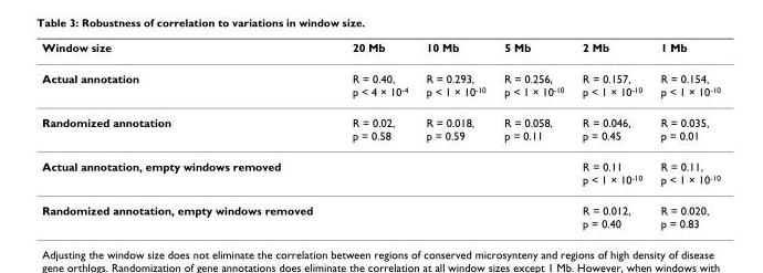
<table><thead><tr><td>Window size</td><td>20 Mb</td><td>10 Mb</td><td>5 Mb</td><td>2 Mb</td><td>1 Mb</td></tr></thead><tbody><tr><td>Actual annotation</td><td>R = 0.40, p &lt; 4 × 10<sup>-4</sup></td><td>R = 0.293, p &lt; 1 × 10<sup>-10</sup></td><td>R = 0.256, p &lt; 1 × 10<sup>-10</sup></td><td>R = 0.157, p &lt; 1 × 10<sup>-10</sup></td><td>R = 0.154, p &lt; 1 × 10<sup>-10</sup></td></tr><tr><td>Randomized annotation</td><td>R = 0.02, p = 0.58</td><td>R = 0.018, p = 0.59</td><td>R = 0.058, p = 0.11</td><td>R = 0.046, p = 0.45</td><td>R = 0.035, p = 0.01</td></tr><tr><td>Actual annotation, empty windows removed</td><td></td><td></td><td></td><td>R = 0.11 p &lt; 1 × 10<sup>-10</sup></td><td>R = 0.11, p &lt; 1 × 10<sup>-10</sup></td></tr><tr><td>Randomized annotation, empty windows removed</td><td></td><td></td><td></td><td>R = 0.012, p = 0.40</td><td>R = 0.020, p = 0.83</td></tr></tbody></table>